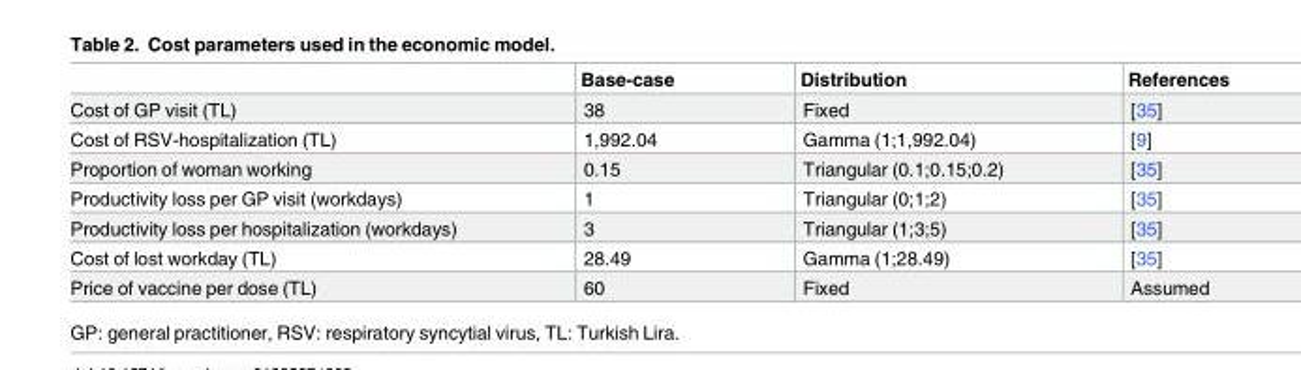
<table><thead><tr><td></td><td>Base-case</td><td>Distribution</td><td>References</td></tr></thead><tbody><tr><td>Cost of GP visit (TL)</td><td>38</td><td>Fixed</td><td>[35]</td></tr><tr><td>Cost of RSV-hospitalization (TL)</td><td>1,992.04</td><td>Gamma (1;1,992.04)</td><td>[9]</td></tr><tr><td>Proportion of woman working</td><td>0.15</td><td>Triangular (0.1;0.15;0.2)</td><td>[35]</td></tr><tr><td>Productivity loss per GP visit (workdays)</td><td>1</td><td>Triangular (0;1;2)</td><td>[35]</td></tr><tr><td>Productivity loss per hospitalization (workdays)</td><td>3</td><td>Triangular (1;3;5)</td><td>[35]</td></tr><tr><td>Cost of lost workday (TL)</td><td>28.49</td><td>Gamma (1;28.49)</td><td>[35]</td></tr><tr><td>Price of vaccine per dose (TL)</td><td>60</td><td>Fixed</td><td>Assumed</td></tr></tbody></table>